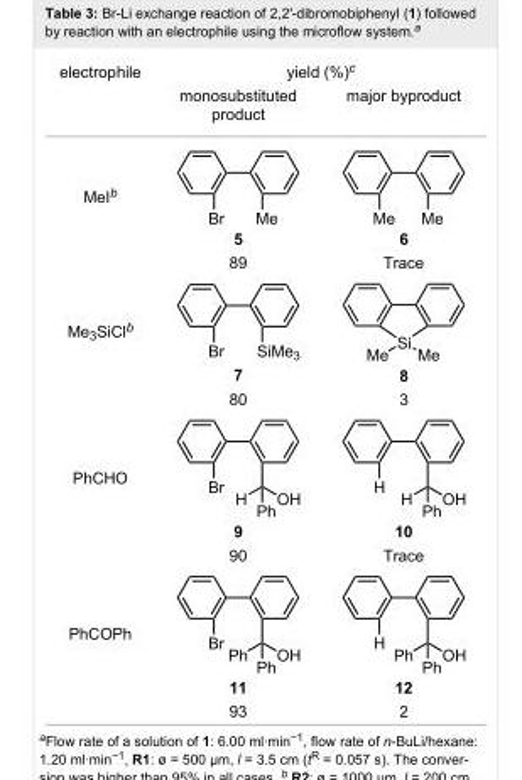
<table><tbody><tr><td rowspan="2">electrophile</td><td colspan="2">yield (%)<sup>c</sup></td></tr><tr><td>monosubstituted product</td><td>major byproduct</td></tr><tr><td rowspan="2">MeI<sup>b</sup></td><td>5</td><td>6</td></tr><tr><td>89</td><td>Trace</td></tr><tr><td rowspan="2">Me<sub>3</sub>SiCl<sup>b</sup></td><td>7</td><td>8</td></tr><tr><td>80</td><td>3</td></tr><tr><td rowspan="2">PhCHO</td><td>9</td><td>10</td></tr><tr><td>90</td><td>Trace</td></tr><tr><td rowspan="2">PhCOPh</td><td>11</td><td>12</td></tr><tr><td>93</td><td>2</td></tr></tbody></table>